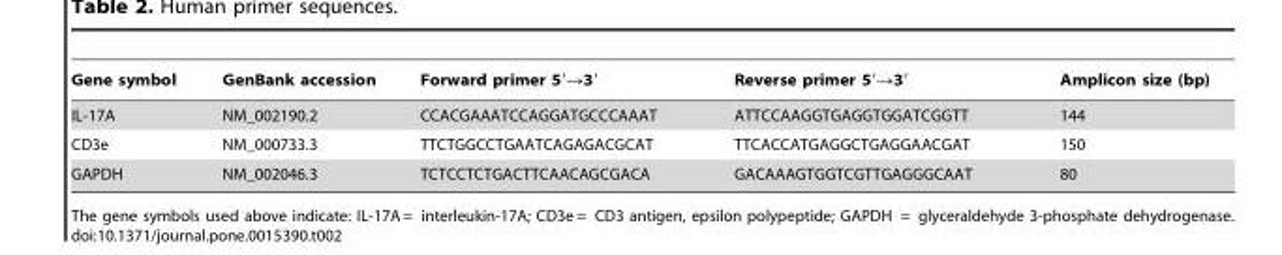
<table><thead><tr><td>Gene symbol</td><td>GenBank accession</td><td>Forward primer 5′→3′</td><td>Reverse primer 5′→3′</td><td>Amplicon size (bp)</td></tr></thead><tbody><tr><td>IL-17A</td><td>NM_002190.2</td><td>CCACGAAATCCAGGATGCCCAAAT</td><td>ATTCCAAGGTGAGGTGGATCGGTT</td><td>144</td></tr><tr><td>CD3e</td><td>NM_000733.3</td><td>TTCTGGCCTGAATCAGAGACGCAT</td><td>TTCACCATGAGGCTGAGGAACGAT</td><td>150</td></tr><tr><td>GAPDH</td><td>NM_002046.3</td><td>TCTCCTCTGACTTCAACAGCGACA</td><td>GACAAAGTGGTCGTTGAGGGCAAT</td><td>80</td></tr></tbody></table>